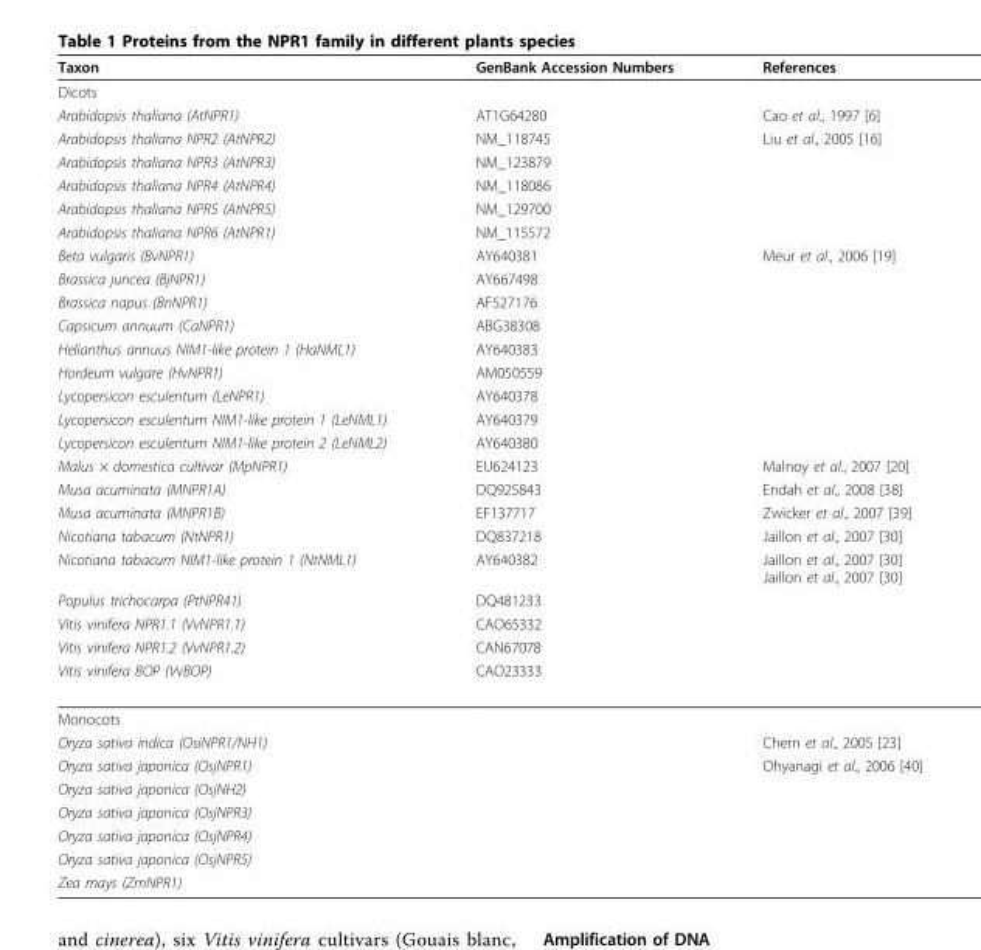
<table><thead><tr><td>Taxon</td><td>GenBank Accession Numbers</td><td>References</td></tr></thead><tbody><tr><td colspan="3">Dicots</td></tr><tr><td>Arabidopsis thaliana (AtNPR1)</td><td>AT1G64280</td><td>Cao et al., 1997 [6]</td></tr><tr><td>Arabidopsis thaliana NPR2 (AtNPR2)</td><td>NM_118745</td><td>Liu et al., 2005 [16]</td></tr><tr><td>Arabidopsis thaliana NPR3 (AtNPR3)</td><td>NM_123879</td><td></td></tr><tr><td>Arabidopsis thaliana NPR4 (AtNPR4)</td><td>NM_118086</td><td></td></tr><tr><td>Arabidopsis thaliana NPR5 (AtNPR5)</td><td>NM_129700</td><td></td></tr><tr><td>Arabidopsis thaliana NPR6 (AtNPR1)</td><td>NM_115572</td><td></td></tr><tr><td>Beta vulgaris (BvNPR1)</td><td>AY640381</td><td>Meur et al., 2006 [19]</td></tr><tr><td>Brassica juncea (BjNPR1)</td><td>AY667498</td><td></td></tr><tr><td>Brassica napus (BnNPR1)</td><td>AF527176</td><td></td></tr><tr><td>Capsicum annuum (CaNPR1)</td><td>ABG38308</td><td></td></tr><tr><td>Helianthus annuus NIM1-like protein 1 (HaNML1)</td><td>AY640383</td><td></td></tr><tr><td>Hordeum vulgare (HvNPR1)</td><td>AM050559</td><td></td></tr><tr><td>Lycopersicon esculentum (LeNPR1)</td><td>AY640378</td><td></td></tr><tr><td>Lycopersicon esculentum NIM1-like protein 1 (LeNML1)</td><td>AY640379</td><td></td></tr><tr><td>Lycopersicon esculentum NIM1-like protein 2 (LeNML2)</td><td>AY640380</td><td></td></tr><tr><td>Malus × domestica cultivar (MpNPR1)</td><td>EU624123</td><td>Malnoy et al., 2007 [20]</td></tr><tr><td>Musa acuminata (MNPR1A)</td><td>DQ925843</td><td>Endah et al., 2008 [38]</td></tr><tr><td>Musa acuminata (MNPR1B)</td><td>EF137717</td><td>Zwicker et al., 2007 [39]</td></tr><tr><td>Nicotiana tabacum (NtNPR1)</td><td>DQ837218</td><td>Jaillon et al., 2007 [30]</td></tr><tr><td>Nicotiana tabacum NIM1-like protein 1 (NtNML1)</td><td>AY640382</td><td>Jaillon et al., 2007 [30] Jaillon et al., 2007 [30]</td></tr><tr><td>Populus trichocarpa (PtNPR41)</td><td>DQ481233</td><td></td></tr><tr><td>Vitis vinifera NPR1.1 (VvNPR1.1)</td><td>CAO65332</td><td></td></tr><tr><td>Vitis vinifera NPR1.2 (VvNPR1.2)</td><td>CAN67078</td><td></td></tr><tr><td>Vitis vinifera BOP (VvBOP)</td><td>CAO23333</td><td></td></tr><tr><td colspan="3">Monocots</td></tr><tr><td>Oryza sativa indica (OsiNPR1/NH1)</td><td></td><td>Chern et al., 2005 [23]</td></tr><tr><td>Oryza sativa japonica (OsjNPR1)</td><td></td><td>Ohyanagi et al., 2006 [40]</td></tr><tr><td colspan="3">Oryza sativa japonica (OsjNH2)</td></tr><tr><td colspan="3">Oryza sativa japonica (OsjNPR3)</td></tr><tr><td colspan="3">Oryza sativa japonica (OsjNPR4)</td></tr><tr><td colspan="3">Oryza sativa japonica (OsjNPR5)</td></tr><tr><td>Zea mays (ZmNPR1)</td><td></td><td></td></tr></tbody></table>